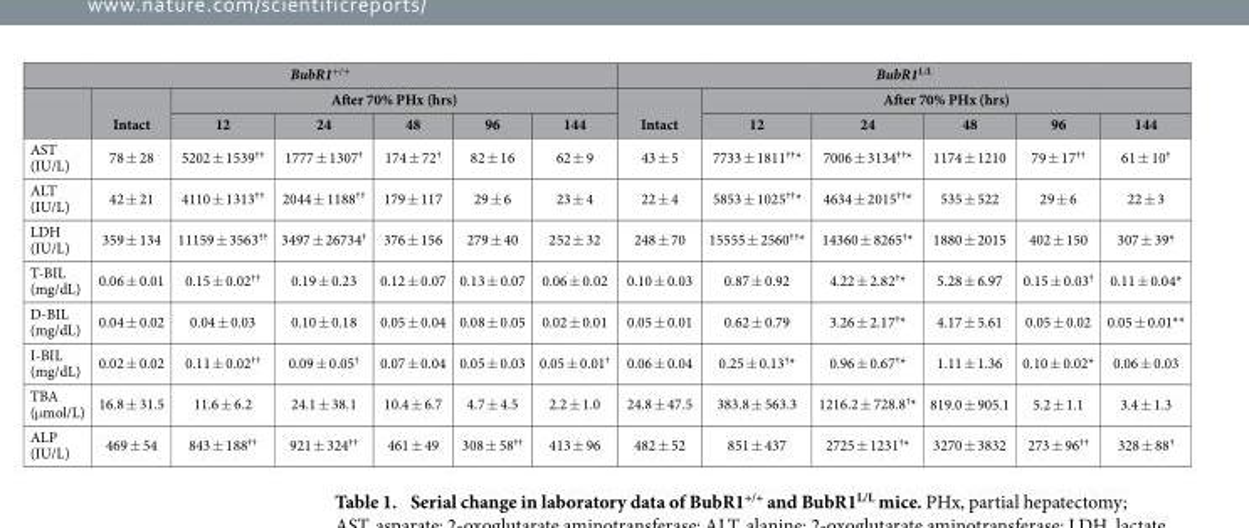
<table><thead><tr><td colspan="7">BubR1<sup>+/+</sup></td><td colspan="6">BubR1<sup>L/L</sup></td></tr><tr><td rowspan="2"></td><td rowspan="2">Intact</td><td colspan="5">After 70% PHx (hrs)</td><td rowspan="2">Intact</td><td colspan="5">After 70% PHx (hrs)</td></tr><tr><td>12</td><td>24</td><td>48</td><td>96</td><td>144</td><td>12</td><td>24</td><td>48</td><td>96</td><td>144</td></tr></thead><tbody><tr><td>AST (IU/L)</td><td>78 ± 28</td><td>5202 ± 1539<sup>††</sup></td><td>1777 ± 1307<sup>†</sup></td><td>174 ± 72<sup>†</sup></td><td>82 ± 16</td><td>62 ± 9</td><td>43 ± 5</td><td>7733 ± 1811<sup>††</sup>*</td><td>7006 ± 3134<sup>††</sup>*</td><td>1174 ± 1210</td><td>79 ± 17<sup>††</sup></td><td>61 ± 10<sup>†</sup></td></tr><tr><td>ALT (IU/L)</td><td>42 ± 21</td><td>4110 ± 1313<sup>††</sup></td><td>2044 ± 1188<sup>††</sup></td><td>179 ± 117</td><td>29 ± 6</td><td>23 ± 4</td><td>22 ± 4</td><td>5853 ± 1025<sup>††</sup>*</td><td>4634 ± 2015<sup>††</sup>*</td><td>535 ± 522</td><td>29 ± 6</td><td>22 ± 3</td></tr><tr><td>LDH (IU/L)</td><td>359 ± 134</td><td>11159 ± 3563<sup>††</sup></td><td>3497 ± 26734<sup>†</sup></td><td>376 ± 156</td><td>279 ± 40</td><td>252 ± 32</td><td>248 ± 70</td><td>15555 ± 2560<sup>††</sup>*</td><td>14360 ± 8265<sup>†</sup>*</td><td>1880 ± 2015</td><td>402 ± 150</td><td>307 ± 39*</td></tr><tr><td>T-BIL (mg/dL)</td><td>0.06 ± 0.01</td><td>0.15 ± 0.02<sup>††</sup></td><td>0.19 ± 0.23</td><td>0.12 ± 0.07</td><td>0.13 ± 0.07</td><td>0.06 ± 0.02</td><td>0.10 ± 0.03</td><td>0.87 ± 0.92</td><td>4.22 ± 2.82<sup>†</sup>*</td><td>5.28 ± 6.97</td><td>0.15 ± 0.03<sup>†</sup></td><td>0.11 ± 0.04*</td></tr><tr><td>D-BIL (mg/dL)</td><td>0.04 ± 0.02</td><td>0.04 ± 0.03</td><td>0.10 ± 0.18</td><td>0.05 ± 0.04</td><td>0.08 ± 0.05</td><td>0.02 ± 0.01</td><td>0.05 ± 0.01</td><td>0.62 ± 0.79</td><td>3.26 ± 2.17<sup>†</sup>*</td><td>4.17 ± 5.61</td><td>0.05 ± 0.02</td><td>0.05 ± 0.01**</td></tr><tr><td>I-BIL (mg/dL)</td><td>0.02 ± 0.02</td><td>0.11 ± 0.02<sup>††</sup></td><td>0.09 ± 0.05<sup>†</sup></td><td>0.07 ± 0.04</td><td>0.05 ± 0.03</td><td>0.05 ± 0.01<sup>†</sup></td><td>0.06 ± 0.04</td><td>0.25 ± 0.13<sup>†</sup>*</td><td>0.96 ± 0.67<sup>†</sup>*</td><td>1.11 ± 1.36</td><td>0.10 ± 0.02*</td><td>0.06 ± 0.03</td></tr><tr><td>TBA (μ mol/L)</td><td>16.8 ± 31.5</td><td>11.6 ± 6.2</td><td>24.1 ± 38.1</td><td>10.4 ± 6.7</td><td>4.7 ± 4.5</td><td>2.2 ± 1.0</td><td>24.8 ± 47.5</td><td>383.8 ± 563.3</td><td>1216.2 ± 728.8<sup>†</sup>*</td><td>819.0 ± 905.1</td><td>5.2 ± 1.1</td><td>3.4 ± 1.3</td></tr><tr><td>ALP (IU/L)</td><td>469 ± 54</td><td>843 ± 188<sup>††</sup></td><td>921 ± 324<sup>††</sup></td><td>461 ± 49</td><td>308 ± 58<sup>††</sup></td><td>413 ± 96</td><td>482 ± 52</td><td>851 ± 437</td><td>2725 ± 1231<sup>†</sup>*</td><td>3270 ± 3832</td><td>273 ± 96<sup>††</sup></td><td>328 ± 88<sup>†</sup></td></tr></tbody></table>